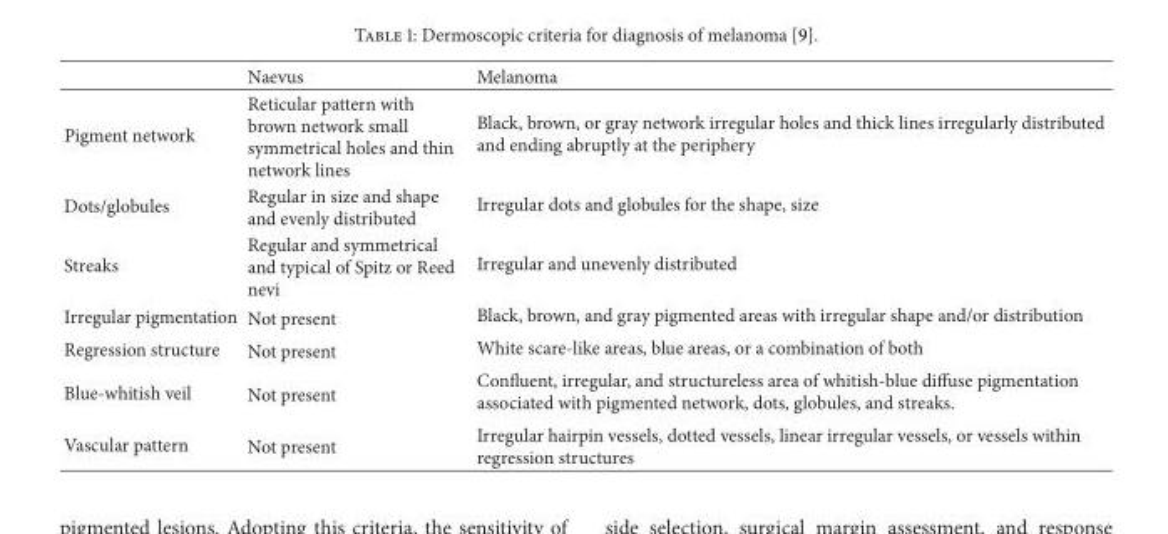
<table><thead><tr><td></td><td>Naevus</td><td>Melanoma</td></tr></thead><tbody><tr><td>Pigment network</td><td>Reticular pattern with brown network small symmetrical holes and thin network lines</td><td>Black, brown, or gray network irregular holes and thick lines irregularly distributed and ending abruptly at the periphery</td></tr><tr><td>Dots/globules</td><td>Regular in size and shape and evenly distributed</td><td>Irregular dots and globules for the shape, size</td></tr><tr><td>Streaks</td><td>Regular and symmetrical and typical of Spitz or Reed nevi</td><td>Irregular and unevenly distributed</td></tr><tr><td>Irregular pigmentation</td><td>Not present</td><td>Black, brown, and gray pigmented areas with irregular shape and/or distribution</td></tr><tr><td>Regression structure</td><td>Not present</td><td>White scare-like areas, blue areas, or a combination of both</td></tr><tr><td>Blue-whitish veil</td><td>Not present</td><td>Confluent, irregular, and structureless area of whitish-blue diffuse pigmentation associated with pigmented network, dots, globules, and streaks.</td></tr><tr><td>Vascular pattern</td><td>Not present</td><td>Irregular hairpin vessels, dotted vessels, linear irregular vessels, or vessels within regression structures</td></tr></tbody></table>